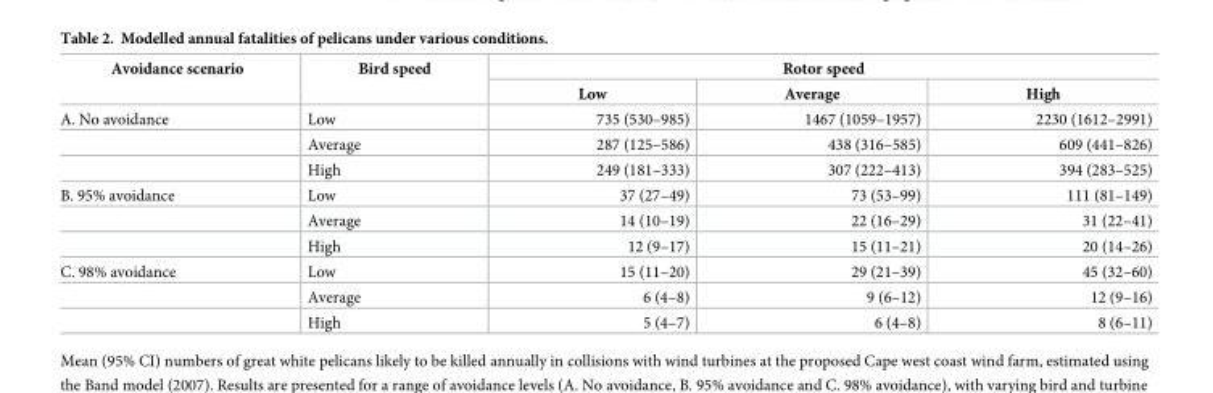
<table><thead><tr><td rowspan="2">Avoidance scenario</td><td rowspan="2">Bird speed</td><td colspan="3">Rotor speed</td></tr><tr><td>Low</td><td>Average</td><td>High</td></tr></thead><tbody><tr><td rowspan="3">A. No avoidance</td><td>Low</td><td>735 (530–985)</td><td>1467 (1059–1957)</td><td>2230 (1612–2991)</td></tr><tr><td>Average</td><td>287 (125–586)</td><td>438 (316–585)</td><td>609 (441–826)</td></tr><tr><td>High</td><td>249 (181–333)</td><td>307 (222–413)</td><td>394 (283–525)</td></tr><tr><td rowspan="3">B. 95% avoidance</td><td>Low</td><td>37 (27–49)</td><td>73 (53–99)</td><td>111 (81–149)</td></tr><tr><td>Average</td><td>14 (10–19)</td><td>22 (16–29)</td><td>31 (22–41)</td></tr><tr><td>High</td><td>12 (9–17)</td><td>15 (11–21)</td><td>20 (14–26)</td></tr><tr><td rowspan="3">C. 98% avoidance</td><td>Low</td><td>15 (11–20)</td><td>29 (21–39)</td><td>45 (32–60)</td></tr><tr><td>Average</td><td>6 (4–8)</td><td>9 (6–12)</td><td>12 (9–16)</td></tr><tr><td>High</td><td>5 (4–7)</td><td>6 (4–8)</td><td>8 (6–11)</td></tr></tbody></table>